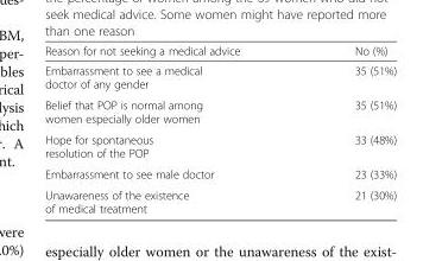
<table><thead><tr><td>Reason for not seeking a medical advice</td><td>No (%)</td></tr></thead><tbody><tr><td>Embarrassment to see a medical doctor of any gender</td><td>35 (51%)</td></tr><tr><td>Belief that POP is normal among women especially older women</td><td>35 (51%)</td></tr><tr><td>Hope for spontaneous resolution of the POP</td><td>33 (48%)</td></tr><tr><td>Embarrassment to see male doctor</td><td>23 (33%)</td></tr><tr><td>Unawareness of the existence of medical treatment</td><td>21 (30%)</td></tr></tbody></table>